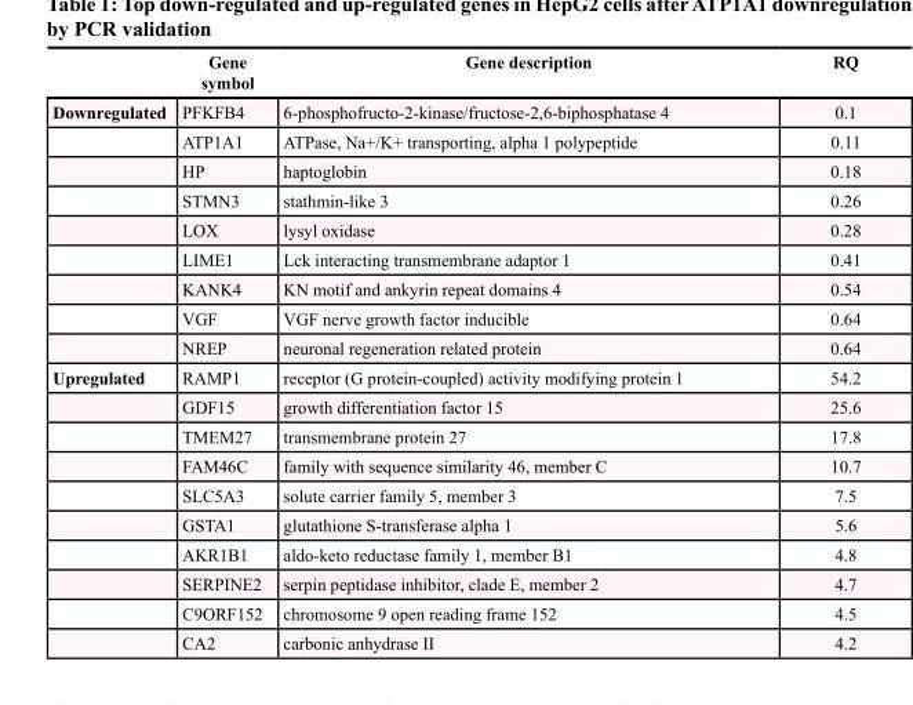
<table><thead><tr><td></td><td>Gene symbol</td><td>Gene description</td><td>RQ</td></tr></thead><tbody><tr><td rowspan="9">Downregulated</td><td>PFKFB4</td><td>6-phosphofructo-2-kinase/fructose-2,6-biphosphatase 4</td><td>0.1</td></tr><tr><td>ATP1A1</td><td>ATPase, Na+/K+ transporting, alpha 1 polypeptide</td><td>0.11</td></tr><tr><td>HP</td><td>haptoglobin</td><td>0.18</td></tr><tr><td>STMN3</td><td>stathmin-like 3</td><td>0.26</td></tr><tr><td>LOX</td><td>lysyl oxidase</td><td>0.28</td></tr><tr><td>LIME1</td><td>Lck interacting transmembrane adaptor 1</td><td>0.41</td></tr><tr><td>KANK4</td><td>KN motif and ankyrin repeat domains 4</td><td>0.54</td></tr><tr><td>VGF</td><td>VGF nerve growth factor inducible</td><td>0.64</td></tr><tr><td>NREP</td><td>neuronal regeneration related protein</td><td>0.64</td></tr><tr><td rowspan="10">Upregulated</td><td>RAMP1</td><td>receptor (G protein-coupled) activity modifying protein 1</td><td>54.2</td></tr><tr><td>GDF15</td><td>growth differentiation factor 15</td><td>25.6</td></tr><tr><td>TMEM27</td><td>transmembrane protein 27</td><td>17.8</td></tr><tr><td>FAM46C</td><td>family with sequence similarity 46, member C</td><td>10.7</td></tr><tr><td>SLC5A3</td><td>solute carrier family 5, member 3</td><td>7.5</td></tr><tr><td>GSTA1</td><td>glutathione S-transferase alpha 1</td><td>5.6</td></tr><tr><td>AKR1B1</td><td>aldo-keto reductase family 1, member B1</td><td>4.8</td></tr><tr><td>SERPINE2</td><td>serpin peptidase inhibitor, clade E, member 2</td><td>4.7</td></tr><tr><td>C9ORF152</td><td>chromosome 9 open reading frame 152</td><td>4.5</td></tr><tr><td>CA2</td><td>carbonic anhydrase II</td><td>4.2</td></tr></tbody></table>